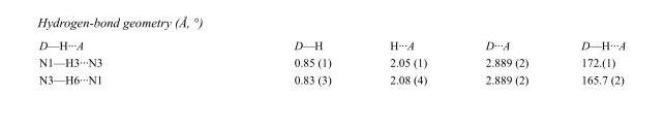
<table><tbody><tr><td>D—H···A</td><td>D—H</td><td>H···A</td><td>D···A</td><td>D—H···A</td></tr><tr><td>N1—H3···N3</td><td>0.85 (1)</td><td>2.05 (1)</td><td>2.889 (2)</td><td>172.(1)</td></tr><tr><td>N3—H6···N1</td><td>0.83 (3)</td><td>2.08 (4)</td><td>2.889 (2)</td><td>165.7 (2)</td></tr></tbody></table>